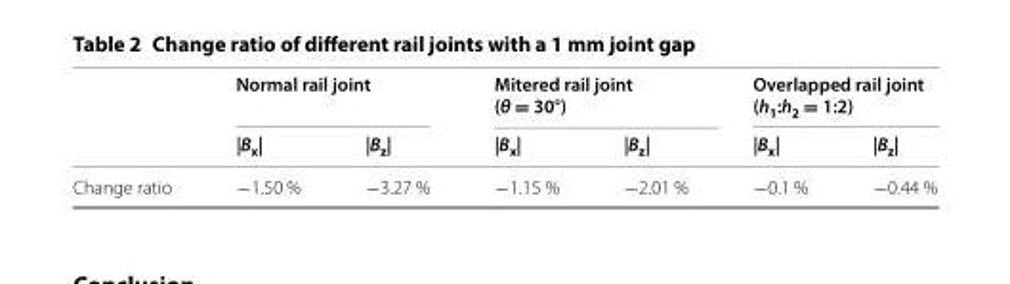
<table><thead><tr><td rowspan="2"></td><td colspan="2">Normal rail joint</td><td colspan="2">Mitered rail joint (θ = 30°)</td><td colspan="2">Overlapped rail joint (h<sub>1</sub>:h<sub>2</sub> = 1:2)</td></tr><tr><td>|B<sub>x</sub>|</td><td>|B<sub>z</sub>|</td><td>|B<sub>x</sub>|</td><td>|B<sub>z</sub>|</td><td>|B<sub>x</sub>|</td><td>|B<sub>z</sub>|</td></tr></thead><tbody><tr><td>Change ratio</td><td>−1.50 %</td><td>−3.27 %</td><td>−1.15 %</td><td>−2.01 %</td><td>−0.1 %</td><td>−0.44 %</td></tr></tbody></table>